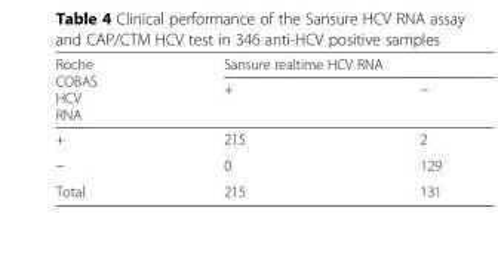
<table><thead><tr><td rowspan="2">Roche COBAS HCV RNA</td><td colspan="2">Sansure realtime HCV RNA</td></tr><tr><td>+</td><td>−</td></tr></thead><tbody><tr><td>+</td><td>215</td><td>2</td></tr><tr><td>−</td><td>0</td><td>129</td></tr><tr><td>Total</td><td>215</td><td>131</td></tr></tbody></table>